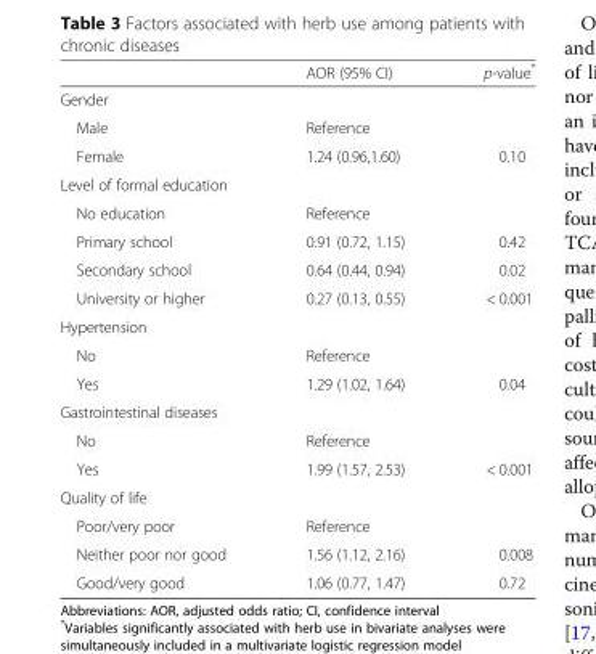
<table><thead><tr><td></td><td>AOR (95% CI)</td><td>p-value*</td></tr></thead><tbody><tr><td colspan="3">Gender</td></tr><tr><td>Male</td><td>Reference</td><td></td></tr><tr><td>Female</td><td>1.24 (0.96,1.60)</td><td>0.10</td></tr><tr><td colspan="3">Level of formal education</td></tr><tr><td>No education</td><td>Reference</td><td></td></tr><tr><td>Primary school</td><td>0.91 (0.72, 1.15)</td><td>0.42</td></tr><tr><td>Secondary school</td><td>0.64 (0.44, 0.94)</td><td>0.02</td></tr><tr><td>University or higher</td><td>0.27 (0.13, 0.55)</td><td>&lt; 0.001</td></tr><tr><td colspan="3">Hypertension</td></tr><tr><td>No</td><td>Reference</td><td></td></tr><tr><td>Yes</td><td>1.29 (1.02, 1.64)</td><td>0.04</td></tr><tr><td colspan="3">Gastrointestinal diseases</td></tr><tr><td>No</td><td>Reference</td><td></td></tr><tr><td>Yes</td><td>1.99 (1.57, 2.53)</td><td>&lt; 0.001</td></tr><tr><td colspan="3">Quality of life</td></tr><tr><td>Poor/very poor</td><td>Reference</td><td></td></tr><tr><td>Neither poor nor good</td><td>1.56 (1.12, 2.16)</td><td>0.008</td></tr><tr><td>Good/very good</td><td>1.06 (0.77, 1.47)</td><td>0.72</td></tr></tbody></table>